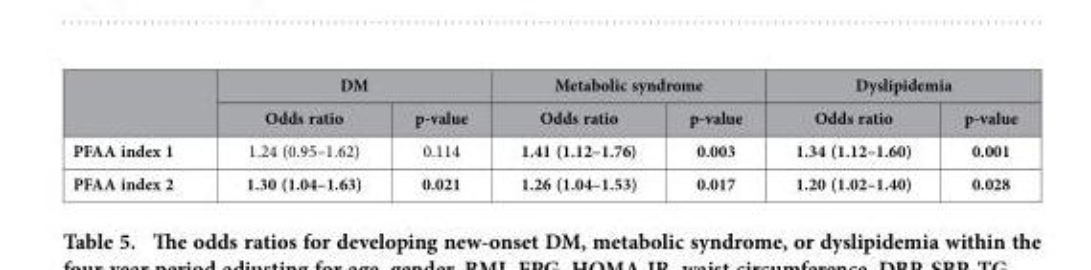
<table><thead><tr><td rowspan="2"></td><td colspan="2">DM</td><td colspan="2">Metabolic syndrome</td><td colspan="2">Dyslipidemia</td></tr><tr><td>Odds ratio</td><td>p-value</td><td>Odds ratio</td><td>p-value</td><td>Odds ratio</td><td>p-value</td></tr></thead><tbody><tr><td>PFAA index 1</td><td>1.24 (0.95–1.62)</td><td>0.114</td><td>1.41 (1.12–1.76)</td><td>0.003</td><td>1.34 (1.12–1.60)</td><td>0.001</td></tr><tr><td>PFAA index 2</td><td>1.30 (1.04–1.63)</td><td>0.021</td><td>1.26 (1.04–1.53)</td><td>0.017</td><td>1.20 (1.02–1.40)</td><td>0.028</td></tr></tbody></table>